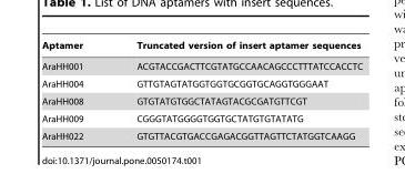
<table><thead><tr><td>Aptamer</td><td>Truncated version of insert aptamer sequences</td></tr></thead><tbody><tr><td>AraHH001</td><td>ACGTACCGACTTCGTATGCCAACAGCCCTTTATCCACCTC</td></tr><tr><td>AraHH004</td><td>GTTGTAGTATGGTGGTGCGGTGCAGGTGGGAAT</td></tr><tr><td>AraHH008</td><td>GTGTATGTGGCTATAGTACGCGATGTTCGT</td></tr><tr><td>AraHH009</td><td>CGGGTATGGGGTGGTGCTATGTGTATATG</td></tr><tr><td>AraHH022</td><td>GTGTTACGTGACCGAGACGGTTAGTTCTATGGTCAAGG</td></tr></tbody></table>